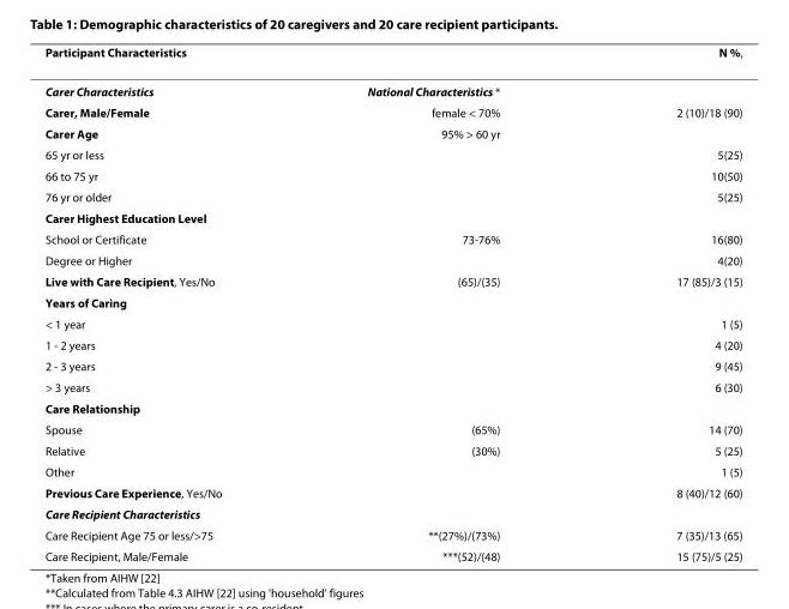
<table><thead><tr><td>Participant Characteristics</td><td></td><td>N %,</td></tr></thead><tbody><tr><td>Carer Characteristics</td><td>National Characteristics *</td><td></td></tr><tr><td>Carer, Male/Female</td><td>female &lt; 70%</td><td>2 (10)/18 (90)</td></tr><tr><td>Carer Age</td><td>95% &gt; 60 yr</td><td></td></tr><tr><td>65 yr or less</td><td></td><td>5(25)</td></tr><tr><td>66 to 75 yr</td><td></td><td>10(50)</td></tr><tr><td>76 yr or older</td><td></td><td>5(25)</td></tr><tr><td colspan="3">Carer Highest Education Level</td></tr><tr><td>School or Certificate</td><td>73-76%</td><td>16(80)</td></tr><tr><td>Degree or Higher</td><td></td><td>4(20)</td></tr><tr><td>Live with Care Recipient, Yes/No</td><td>(65)/(35)</td><td>17 (85)/3 (15)</td></tr><tr><td colspan="3">Years of Caring</td></tr><tr><td>&lt; 1 year</td><td></td><td>1 (5)</td></tr><tr><td>1 - 2 years</td><td></td><td>4 (20)</td></tr><tr><td>2 - 3 years</td><td></td><td>9 (45)</td></tr><tr><td>&gt; 3 years</td><td></td><td>6 (30)</td></tr><tr><td colspan="3">Care Relationship</td></tr><tr><td>Spouse</td><td>(65%)</td><td>14 (70)</td></tr><tr><td>Relative</td><td>(30%)</td><td>5 (25)</td></tr><tr><td>Other</td><td></td><td>1 (5)</td></tr><tr><td>Previous Care Experience, Yes/No</td><td></td><td>8 (40)/12 (60)</td></tr><tr><td colspan="3">Care Recipient Characteristics</td></tr><tr><td>Care Recipient Age 75 or less/&gt;75</td><td>**(27%)/(73%)</td><td>7 (35)/13 (65)</td></tr><tr><td>Care Recipient, Male/Female</td><td>***(52)/(48)</td><td>15 (75)/5 (25)</td></tr></tbody></table>